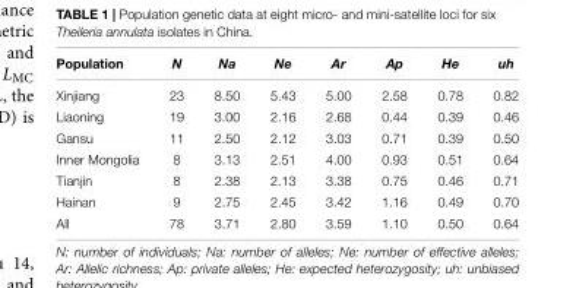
<table><thead><tr><td>Population</td><td>N</td><td>Na</td><td>Ne</td><td>Ar</td><td>Ap</td><td>He</td><td>uh</td></tr></thead><tbody><tr><td>Xinjiang</td><td>23</td><td>8.50</td><td>5.43</td><td>5.00</td><td>2.58</td><td>0.78</td><td>0.82</td></tr><tr><td>Liaoning</td><td>19</td><td>3.00</td><td>2.16</td><td>2.68</td><td>0.44</td><td>0.39</td><td>0.46</td></tr><tr><td>Gansu</td><td>11</td><td>2.50</td><td>2.12</td><td>3.03</td><td>0.71</td><td>0.39</td><td>0.50</td></tr><tr><td>Inner Mongolia</td><td>8</td><td>3.13</td><td>2.51</td><td>4.00</td><td>0.93</td><td>0.51</td><td>0.64</td></tr><tr><td>Tianjin</td><td>8</td><td>2.38</td><td>2.13</td><td>3.38</td><td>0.75</td><td>0.46</td><td>0.71</td></tr><tr><td>Hainan</td><td>9</td><td>2.75</td><td>2.45</td><td>3.42</td><td>1.16</td><td>0.49</td><td>0.70</td></tr><tr><td>All</td><td>78</td><td>3.71</td><td>2.80</td><td>3.59</td><td>1.10</td><td>0.50</td><td>0.64</td></tr></tbody></table>